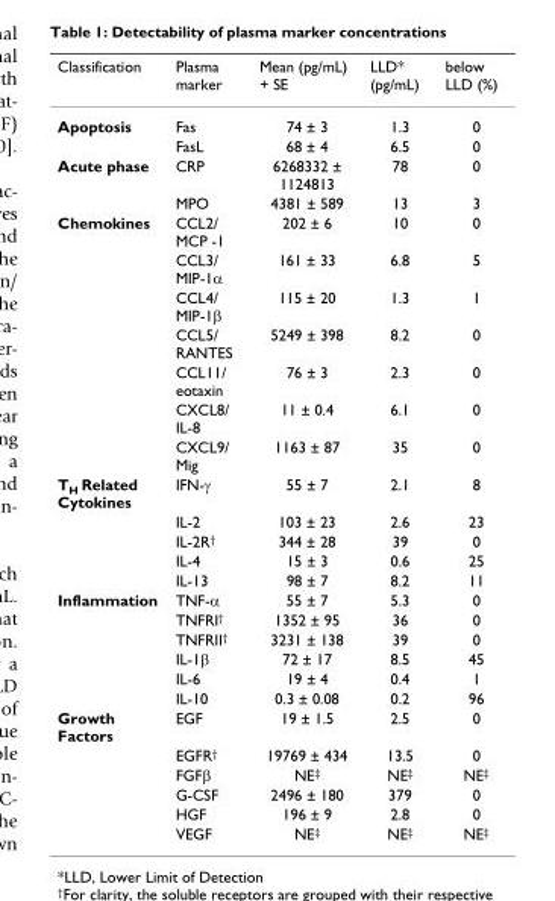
<table><thead><tr><td>Classification</td><td>Plasma marker</td><td>Mean (pg/mL) + SE</td><td>LLD* (pg/mL)</td><td>below LLD (%)</td></tr></thead><tbody><tr><td rowspan="2">Apoptosis</td><td>Fas</td><td>74 ± 3</td><td>1.3</td><td>0</td></tr><tr><td>FasL</td><td>68 ± 4</td><td>6.5</td><td>0</td></tr><tr><td rowspan="2">Acute phase</td><td>CRP</td><td>6268332 ± 1124813</td><td>78</td><td>0</td></tr><tr><td>MPO</td><td>4381 ± 589</td><td>13</td><td>3</td></tr><tr><td rowspan="7">Chemokines</td><td>CCL2/ MCP -1</td><td>202 ± 6</td><td>10</td><td>0</td></tr><tr><td>CCL3/ MIP-1α</td><td>161 ± 33</td><td>6.8</td><td>5</td></tr><tr><td>CCL4/ MIP-1β</td><td>115 ± 20</td><td>1.3</td><td>1</td></tr><tr><td>CCL5/ RANTES</td><td>5249 ± 398</td><td>8.2</td><td>0</td></tr><tr><td>CCL11/ eotaxin</td><td>76 ± 3</td><td>2.3</td><td>0</td></tr><tr><td>CXCL8/ IL-8</td><td>11 ± 0.4</td><td>6.1</td><td>0</td></tr><tr><td>CXCL9/ Mig</td><td>1163 ± 87</td><td>35</td><td>0</td></tr><tr><td rowspan="5">T<sub>H</sub> Related Cytokines</td><td>IFN-γ</td><td>55 ± 7</td><td>2.1</td><td>8</td></tr><tr><td>IL-2</td><td>103 ± 23</td><td>2.6</td><td>23</td></tr><tr><td>IL-2R<sup>†</sup></td><td>344 ± 28</td><td>39</td><td>0</td></tr><tr><td>IL-4</td><td>15 ± 3</td><td>0.6</td><td>25</td></tr><tr><td>IL-13</td><td>98 ± 7</td><td>8.2</td><td>11</td></tr><tr><td rowspan="6">Inflammation</td><td>TNF-α</td><td>55 ± 7</td><td>5.3</td><td>0</td></tr><tr><td>TNFRI<sup>†</sup></td><td>1352 ± 95</td><td>36</td><td>0</td></tr><tr><td>TNFRII<sup>†</sup></td><td>3231 ± 138</td><td>39</td><td>0</td></tr><tr><td>IL-1β</td><td>72 ± 17</td><td>8.5</td><td>45</td></tr><tr><td>IL-6</td><td>19 ± 4</td><td>0.4</td><td>1</td></tr><tr><td>IL-10</td><td>0.3 ± 0.08</td><td>0.2</td><td>96</td></tr><tr><td rowspan="6">Growth Factors</td><td>EGF</td><td>19 ± 1.5</td><td>2.5</td><td>0</td></tr><tr><td>EGFR<sup>†</sup></td><td>19769 ± 434</td><td>13.5</td><td>0</td></tr><tr><td>FGFβ</td><td>NE<sup>‡</sup></td><td>NE<sup>‡</sup></td><td>NE<sup>‡</sup></td></tr><tr><td>G-CSF</td><td>2496 ± 180</td><td>379</td><td>0</td></tr><tr><td>HGF</td><td>196 ± 9</td><td>2.8</td><td>0</td></tr><tr><td>VEGF</td><td>NE<sup>‡</sup></td><td>NE<sup>‡</sup></td><td>NE<sup>‡</sup></td></tr></tbody></table>